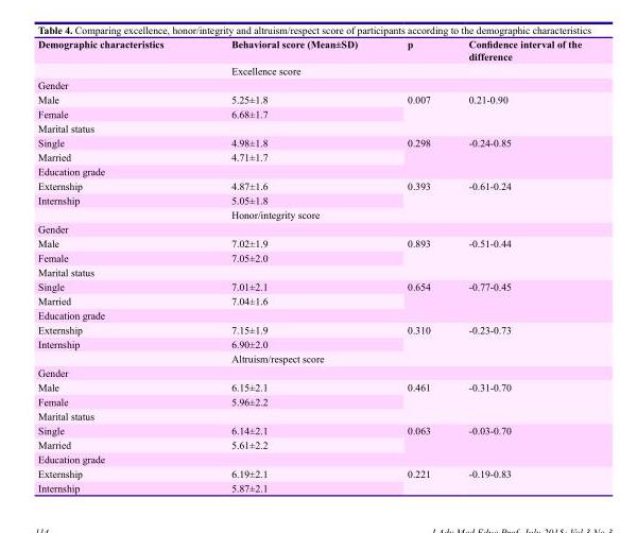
<table><thead><tr><td>Demographic characteristics</td><td>Behavioral score (Mean±SD)</td><td>p</td><td>Confidence interval of the difference</td></tr></thead><tbody><tr><td colspan="4">Excellence score</td></tr><tr><td colspan="4">Gender</td></tr><tr><td>Male</td><td>5.25±1.8</td><td rowspan="2">0.007</td><td rowspan="2">0.21-0.90</td></tr><tr><td>Female</td><td>6.68±1.7</td></tr><tr><td colspan="4">Marital status</td></tr><tr><td>Single</td><td>4.98±1.8</td><td rowspan="2">0.298</td><td rowspan="2">-0.24-0.85</td></tr><tr><td>Married</td><td>4.71±1.7</td></tr><tr><td colspan="4">Education grade</td></tr><tr><td>Externship</td><td>4.87±1.6</td><td rowspan="2">0.393</td><td rowspan="2">-0.61-0.24</td></tr><tr><td>Internship</td><td>5.05±1.8</td></tr><tr><td colspan="4">Honor/integrity score</td></tr><tr><td colspan="4">Gender</td></tr><tr><td>Male</td><td>7.02±1.9</td><td rowspan="2">0.893</td><td rowspan="2">-0.51-0.44</td></tr><tr><td>Female</td><td>7.05±2.0</td></tr><tr><td colspan="4">Marital status</td></tr><tr><td>Single</td><td>7.01±2.1</td><td rowspan="2">0.654</td><td rowspan="2">-0.77-0.45</td></tr><tr><td>Married</td><td>7.04±1.6</td></tr><tr><td colspan="4">Education grade</td></tr><tr><td>Externship</td><td>7.15±1.9</td><td rowspan="2">0.310</td><td rowspan="2">-0.23-0.73</td></tr><tr><td>Internship</td><td>6.90±2.0</td></tr><tr><td colspan="4">Altruism/respect score</td></tr><tr><td colspan="4">Gender</td></tr><tr><td>Male</td><td>6.15±2.1</td><td rowspan="2">0.461</td><td rowspan="2">-0.31-0.70</td></tr><tr><td>Female</td><td>5.96±2.2</td></tr><tr><td colspan="4">Marital status</td></tr><tr><td>Single</td><td>6.14±2.1</td><td rowspan="2">0.063</td><td rowspan="2">-0.03-0.70</td></tr><tr><td>Married</td><td>5.61±2.2</td></tr><tr><td colspan="4">Education grade</td></tr><tr><td>Externship</td><td>6.19±2.1</td><td rowspan="2">0.221</td><td rowspan="2">-0.19-0.83</td></tr><tr><td>Internship</td><td>5.87±2.1</td></tr></tbody></table>